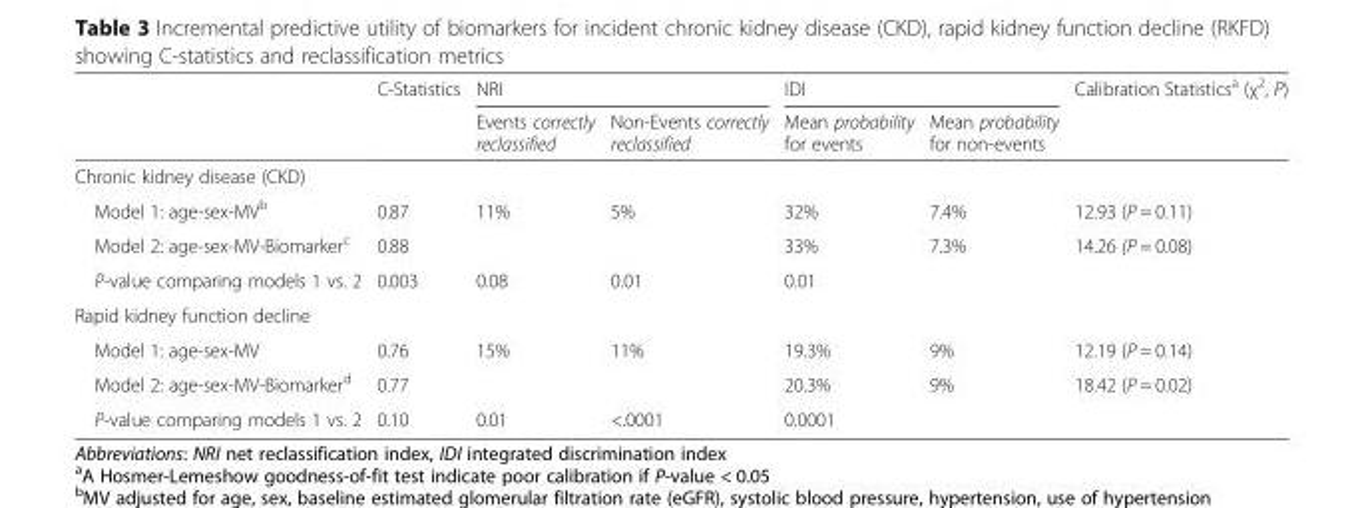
<table><thead><tr><td rowspan="2"></td><td rowspan="2">C-Statistics</td><td colspan="2">NRI</td><td colspan="2">IDI</td><td rowspan="2">Calibration Statistics<sup>a</sup> (χ<sup>2</sup>, P)</td></tr><tr><td>Events correctly reclassified</td><td>Non-Events correctly reclassified</td><td>Mean probability for events</td><td>Mean probability for non-events</td></tr></thead><tbody><tr><td colspan="7">Chronic kidney disease (CKD)</td></tr><tr><td>Model 1: age-sex-MV<sup>b</sup></td><td>0.87</td><td rowspan="2">11%</td><td rowspan="2">5%</td><td>32%</td><td>7.4%</td><td>12.93 (P = 0.11)</td></tr><tr><td>Model 2: age-sex-MV-Biomarker<sup>c</sup></td><td>0.88</td><td>33%</td><td>7.3%</td><td>14.26 (P = 0.08)</td></tr><tr><td>P-value comparing models 1 vs. 2</td><td>0.003</td><td>0.08</td><td>0.01</td><td colspan="2">0.01</td><td></td></tr><tr><td colspan="7">Rapid kidney function decline</td></tr><tr><td>Model 1: age-sex-MV</td><td>0.76</td><td rowspan="2">15%</td><td rowspan="2">11%</td><td>19.3%</td><td>9%</td><td>12.19 (P = 0.14)</td></tr><tr><td>Model 2: age-sex-MV-Biomarker<sup>d</sup></td><td>0.77</td><td>20.3%</td><td>9%</td><td>18.42 (P = 0.02)</td></tr><tr><td>P-value comparing models 1 vs. 2</td><td>0.10</td><td>0.01</td><td>&lt;.0001</td><td colspan="2">0.0001</td><td></td></tr></tbody></table>